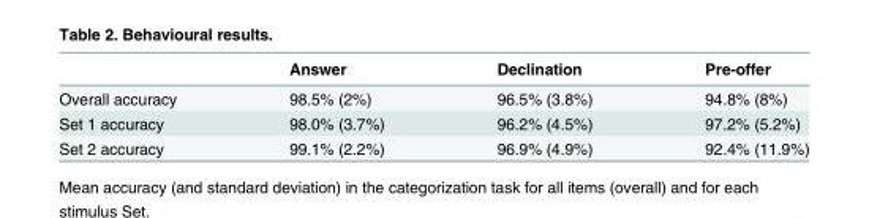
<table><thead><tr><td></td><td>Answer</td><td>Declination</td><td>Pre-offer</td></tr></thead><tbody><tr><td>Overall accuracy</td><td>98.5% (2%)</td><td>96.5% (3.8%)</td><td>94.8% (8%)</td></tr><tr><td>Set 1 accuracy</td><td>98.0% (3.7%)</td><td>96.2% (4.5%)</td><td>97.2% (5.2%)</td></tr><tr><td>Set 2 accuracy</td><td>99.1% (2.2%)</td><td>96.9% (4.9%)</td><td>92.4% (11.9%)</td></tr></tbody></table>